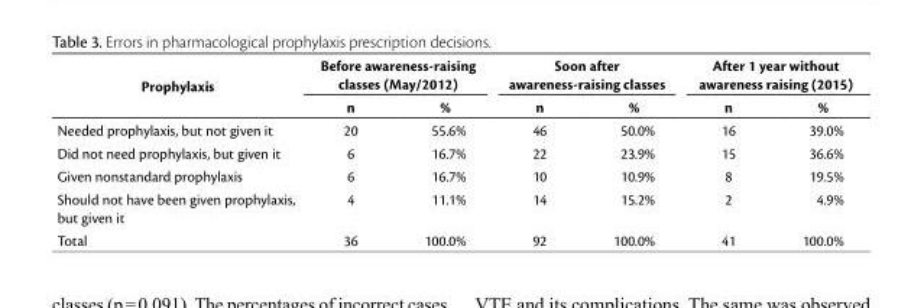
<table><thead><tr><td rowspan="2">Prophylaxis</td><td colspan="2">Before awareness-raising classes (May/2012)</td><td colspan="2">Soon after awareness-raising classes</td><td colspan="2">After 1 year without awareness raising (2015)</td></tr><tr><td>n</td><td>%</td><td>n</td><td>%</td><td>n</td><td>%</td></tr></thead><tbody><tr><td>Needed prophylaxis, but not given it</td><td>20</td><td>55.6%</td><td>46</td><td>50.0%</td><td>16</td><td>39.0%</td></tr><tr><td>Did not need prophylaxis, but given it</td><td>6</td><td>16.7%</td><td>22</td><td>23.9%</td><td>15</td><td>36.6%</td></tr><tr><td>Given nonstandard prophylaxis</td><td>6</td><td>16.7%</td><td>10</td><td>10.9%</td><td>8</td><td>19.5%</td></tr><tr><td>Should not have been given prophylaxis, but given it</td><td>4</td><td>11.1%</td><td>14</td><td>15.2%</td><td>2</td><td>4.9%</td></tr><tr><td>Total</td><td>36</td><td>100.0%</td><td>92</td><td>100.0%</td><td>41</td><td>100.0%</td></tr></tbody></table>